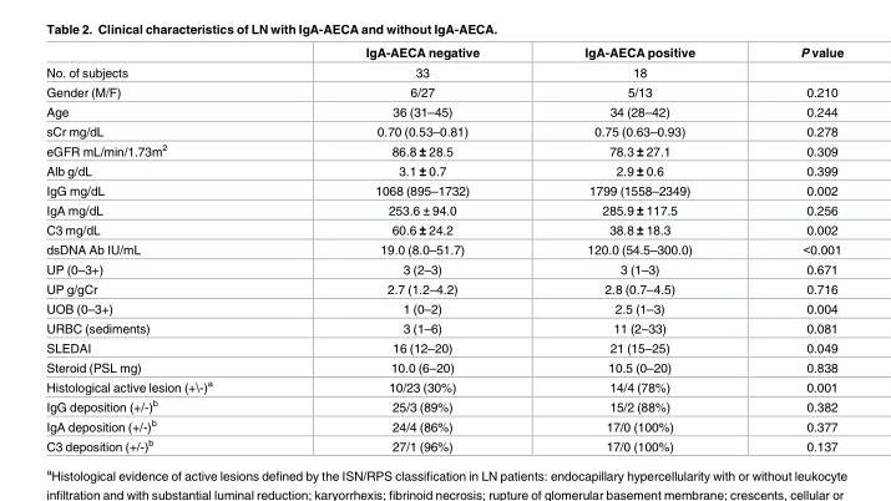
<table><thead><tr><td></td><td>IgA-AECA negative</td><td>IgA-AECA positive</td><td>P value</td></tr></thead><tbody><tr><td>No. of subjects</td><td>33</td><td>18</td><td></td></tr><tr><td>Gender (M/F)</td><td>6/27</td><td>5/13</td><td>0.210</td></tr><tr><td>Age</td><td>36 (31–45)</td><td>34 (28–42)</td><td>0.244</td></tr><tr><td>sCr mg/dL</td><td>0.70 (0.53–0.81)</td><td>0.75 (0.63–0.93)</td><td>0.278</td></tr><tr><td>eGFR mL/min/1.73m<sup>2</sup></td><td>86.8 ± 28.5</td><td>78.3 ± 27.1</td><td>0.309</td></tr><tr><td>Alb g/dL</td><td>3.1 ± 0.7</td><td>2.9 ± 0.6</td><td>0.399</td></tr><tr><td>IgG mg/dL</td><td>1068 (895–1732)</td><td>1799 (1558–2349)</td><td>0.002</td></tr><tr><td>IgA mg/dL</td><td>253.6 ± 94.0</td><td>285.9 ± 117.5</td><td>0.256</td></tr><tr><td>C3 mg/dL</td><td>60.6 ± 24.2</td><td>38.8 ± 18.3</td><td>0.002</td></tr><tr><td>dsDNA Ab IU/mL</td><td>19.0 (8.0–51.7)</td><td>120.0 (54.5–300.0)</td><td>&lt;0.001</td></tr><tr><td>UP (0–3+)</td><td>3 (2–3)</td><td>3 (1–3)</td><td>0.671</td></tr><tr><td>UP g/gCr</td><td>2.7 (1.2–4.2)</td><td>2.8 (0.7–4.5)</td><td>0.716</td></tr><tr><td>UOB (0–3+)</td><td>1 (0–2)</td><td>2.5 (1–3)</td><td>0.004</td></tr><tr><td>URBC (sediments)</td><td>3 (1–6)</td><td>11 (2–33)</td><td>0.081</td></tr><tr><td>SLEDAI</td><td>16 (12–20)</td><td>21 (15–25)</td><td>0.049</td></tr><tr><td>Steroid (PSL mg)</td><td>10.0 (6–20)</td><td>10.5 (0–20)</td><td>0.838</td></tr><tr><td>Histological active lesion (+\-)<sup>a</sup></td><td>10/23 (30%)</td><td>14/4 (78%)</td><td>0.001</td></tr><tr><td>IgG deposition (+/-)<sup>b</sup></td><td>25/3 (89%)</td><td>15/2 (88%)</td><td>0.382</td></tr><tr><td>IgA deposition (+/-)<sup>b</sup></td><td>24/4 (86%)</td><td>17/0 (100%)</td><td>0.377</td></tr><tr><td>C3 deposition (+/-)<sup>b</sup></td><td>27/1 (96%)</td><td>17/0 (100%)</td><td>0.137</td></tr></tbody></table>